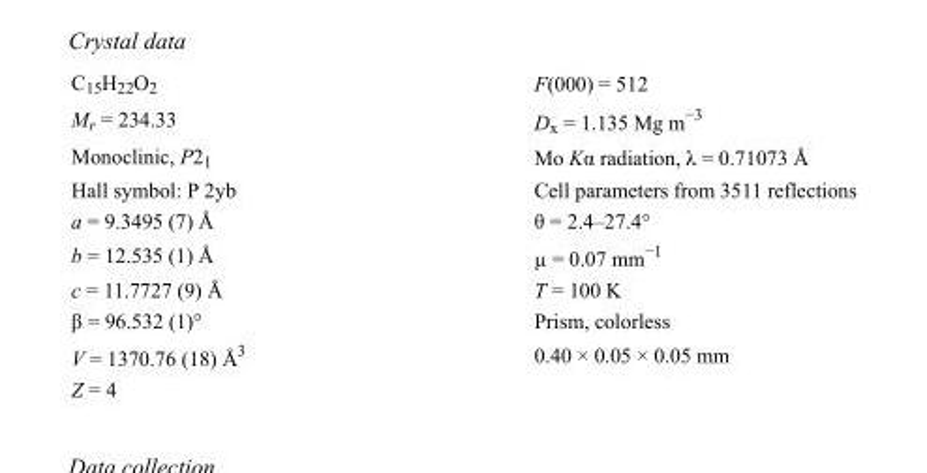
<table><tbody><tr><td>C<sub>15</sub>H<sub>22</sub>O<sub>2</sub></td><td>F(000) = 512</td></tr><tr><td>M<sub>r</sub> = 234.33</td><td>D<sub>x</sub> = 1.135 Mg m<sup>−3</sup></td></tr><tr><td>Monoclinic, P2<sub>1</sub></td><td>Mo Kα radiation, λ = 0.71073 Å</td></tr><tr><td>Hall symbol: P 2yb</td><td>Cell parameters from 3511 reflections</td></tr><tr><td>a = 9.3495 (7) Å</td><td>θ = 2.4–27.4°</td></tr><tr><td>b = 12.535 (1) Å</td><td>µ = 0.07 mm<sup>−1</sup></td></tr><tr><td>c = 11.7727 (9) Å</td><td>T = 100 K</td></tr><tr><td>β = 96.532 (1)°</td><td>Prism, colorless</td></tr><tr><td>V = 1370.76 (18) Å<sup>3</sup></td><td>0.40 × 0.05 × 0.05 mm</td></tr><tr><td>Z = 4</td><td></td></tr></tbody></table>